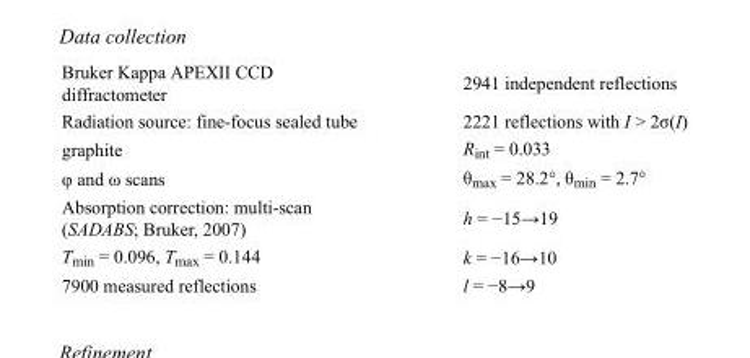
<table><tbody><tr><td>Bruker Kappa APEXII CCD diffractometer</td><td>2941 independent reflections</td></tr><tr><td>Radiation source: fine-focus sealed tube</td><td>2221 reflections with I &gt; 2σ(I)</td></tr><tr><td>graphite</td><td>R<sub>int</sub> = 0.033</td></tr><tr><td>φ and ω scans</td><td>θ<sub>max</sub> = 28.2°, θ<sub>min</sub> = 2.7°</td></tr><tr><td>Absorption correction: multi-scan (SADABS; Bruker, 2007)</td><td>h = −15→19</td></tr><tr><td>T<sub>min</sub> = 0.096, T<sub>max</sub> = 0.144</td><td>k = −16→10</td></tr><tr><td>7900 measured reflections</td><td>l = −8→9</td></tr></tbody></table>